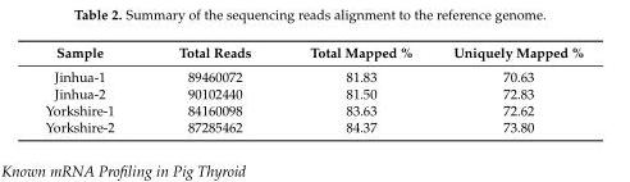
<table><thead><tr><td>Sample</td><td>Total Reads</td><td>Total Mapped %</td><td>Uniquely Mapped %</td></tr></thead><tbody><tr><td>Jinhua-1</td><td>89460072</td><td>81.83</td><td>70.63</td></tr><tr><td>Jinhua-2</td><td>90102440</td><td>81.50</td><td>72.83</td></tr><tr><td>Yorkshire-1</td><td>84160098</td><td>83.63</td><td>72.62</td></tr><tr><td>Yorkshire-2</td><td>87285462</td><td>84.37</td><td>73.80</td></tr></tbody></table>